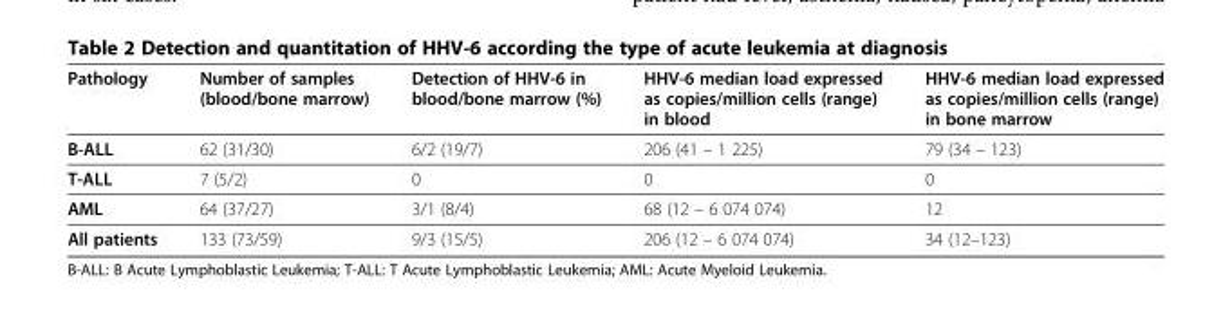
<table><thead><tr><td>Pathology</td><td>Number of samples (blood/bone marrow)</td><td>Detection of HHV-6 in blood/bone marrow (%)</td><td>HHV-6 median load expressed as copies/million cells (range) in blood</td><td>HHV-6 median load expressed as copies/million cells (range) in bone marrow</td></tr></thead><tbody><tr><td>B-ALL</td><td>62 (31/30)</td><td>6/2 (19/7)</td><td>206 (41 – 1 225)</td><td>79 (34 – 123)</td></tr><tr><td>T-ALL</td><td>7 (5/2)</td><td>0</td><td>0</td><td>0</td></tr><tr><td>AML</td><td>64 (37/27)</td><td>3/1 (8/4)</td><td>68 (12 – 6 074 074)</td><td>12</td></tr><tr><td>All patients</td><td>133 (73/59)</td><td>9/3 (15/5)</td><td>206 (12 – 6 074 074)</td><td>34 (12–123)</td></tr></tbody></table>